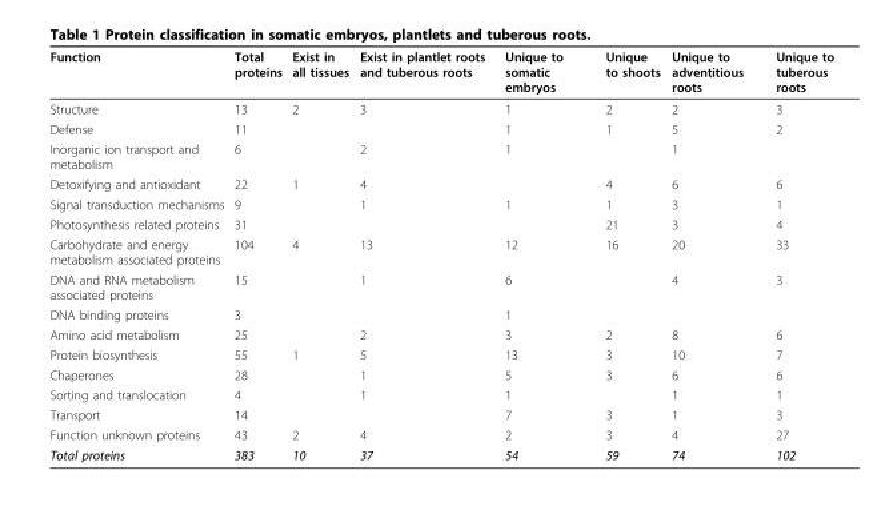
<table><thead><tr><td>Function</td><td>Total proteins</td><td>Exist in all tissues</td><td>Exist in plantlet roots and tuberous roots</td><td>Unique to somatic embryos</td><td>Unique to shoots</td><td>Unique to adventitious roots</td><td>Unique to tuberous roots</td></tr></thead><tbody><tr><td>Structure</td><td>13</td><td>2</td><td>3</td><td>1</td><td>2</td><td>2</td><td>3</td></tr><tr><td>Defense</td><td>11</td><td></td><td></td><td>1</td><td>1</td><td>5</td><td>2</td></tr><tr><td>Inorganic ion transport and metabolism</td><td>6</td><td></td><td>2</td><td>1</td><td></td><td>1</td><td></td></tr><tr><td>Detoxifying and antioxidant</td><td>22</td><td>1</td><td>4</td><td></td><td>4</td><td>6</td><td>6</td></tr><tr><td>Signal transduction mechanisms</td><td>9</td><td></td><td>1</td><td>1</td><td>1</td><td>3</td><td>1</td></tr><tr><td>Photosynthesis related proteins</td><td>31</td><td></td><td></td><td></td><td>21</td><td>3</td><td>4</td></tr><tr><td>Carbohydrate and energy metabolism associated proteins</td><td>104</td><td>4</td><td>13</td><td>12</td><td>16</td><td>20</td><td>33</td></tr><tr><td>DNA and RNA metabolism associated proteins</td><td>15</td><td></td><td>1</td><td>6</td><td></td><td>4</td><td>3</td></tr><tr><td>DNA binding proteins</td><td>3</td><td></td><td></td><td>1</td><td></td><td></td><td></td></tr><tr><td>Amino acid metabolism</td><td>25</td><td></td><td>2</td><td>3</td><td>2</td><td>8</td><td>6</td></tr><tr><td>Protein biosynthesis</td><td>55</td><td>1</td><td>5</td><td>13</td><td>3</td><td>10</td><td>7</td></tr><tr><td>Chaperones</td><td>28</td><td></td><td>1</td><td>5</td><td>3</td><td>6</td><td>6</td></tr><tr><td>Sorting and translocation</td><td>4</td><td></td><td>1</td><td>1</td><td></td><td>1</td><td>1</td></tr><tr><td>Transport</td><td>14</td><td></td><td></td><td>7</td><td>3</td><td>1</td><td>3</td></tr><tr><td>Function unknown proteins</td><td>43</td><td>2</td><td>4</td><td>2</td><td>3</td><td>4</td><td>27</td></tr><tr><td>Total proteins</td><td>383</td><td>10</td><td>37</td><td>54</td><td>59</td><td>74</td><td>102</td></tr></tbody></table>